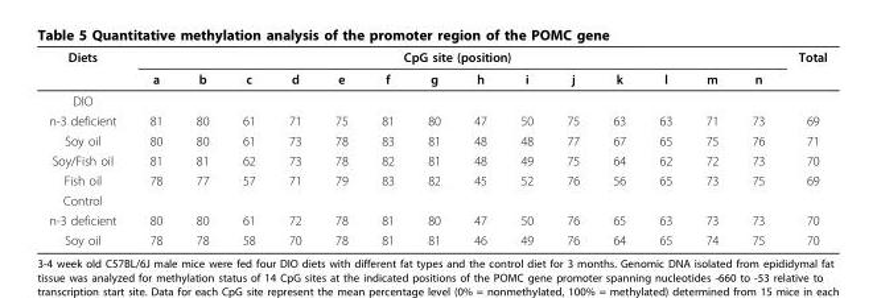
<table><thead><tr><td rowspan="2">Diets</td><td colspan="14">CpG site (position)</td><td rowspan="2">Total</td></tr><tr><td>a</td><td>b</td><td>c</td><td>d</td><td>e</td><td>f</td><td>g</td><td>h</td><td>i</td><td>j</td><td>k</td><td>l</td><td>m</td><td>n</td></tr></thead><tbody><tr><td colspan="16">DIO</td></tr><tr><td>n-3 deficient</td><td>81</td><td>80</td><td>61</td><td>71</td><td>75</td><td>81</td><td>80</td><td>47</td><td>50</td><td>75</td><td>63</td><td>63</td><td>71</td><td>73</td><td>69</td></tr><tr><td>Soy oil</td><td>80</td><td>80</td><td>61</td><td>73</td><td>78</td><td>83</td><td>81</td><td>48</td><td>48</td><td>77</td><td>67</td><td>65</td><td>75</td><td>76</td><td>71</td></tr><tr><td>Soy/Fish oil</td><td>81</td><td>81</td><td>62</td><td>73</td><td>78</td><td>82</td><td>81</td><td>48</td><td>49</td><td>75</td><td>64</td><td>62</td><td>72</td><td>73</td><td>70</td></tr><tr><td>Fish oil</td><td>78</td><td>77</td><td>57</td><td>71</td><td>79</td><td>83</td><td>82</td><td>45</td><td>52</td><td>76</td><td>56</td><td>65</td><td>73</td><td>75</td><td>69</td></tr><tr><td colspan="16">Control</td></tr><tr><td>n-3 deficient</td><td>80</td><td>80</td><td>61</td><td>72</td><td>78</td><td>81</td><td>80</td><td>47</td><td>50</td><td>76</td><td>65</td><td>63</td><td>73</td><td>73</td><td>70</td></tr><tr><td>Soy oil</td><td>78</td><td>78</td><td>58</td><td>70</td><td>78</td><td>81</td><td>81</td><td>46</td><td>49</td><td>76</td><td>64</td><td>65</td><td>74</td><td>75</td><td>70</td></tr></tbody></table>